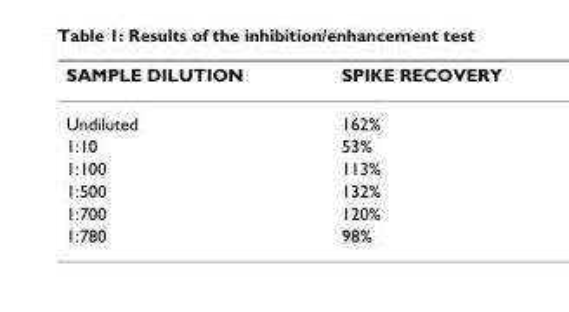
<table><thead><tr><td>SAMPLE DILUTION</td><td>SPIKE RECOVERY</td></tr></thead><tbody><tr><td>Undiluted</td><td>162%</td></tr><tr><td>1:10</td><td>53%</td></tr><tr><td>1:100</td><td>113%</td></tr><tr><td>1:500</td><td>132%</td></tr><tr><td>1:700</td><td>120%</td></tr><tr><td>1:780</td><td>98%</td></tr></tbody></table>